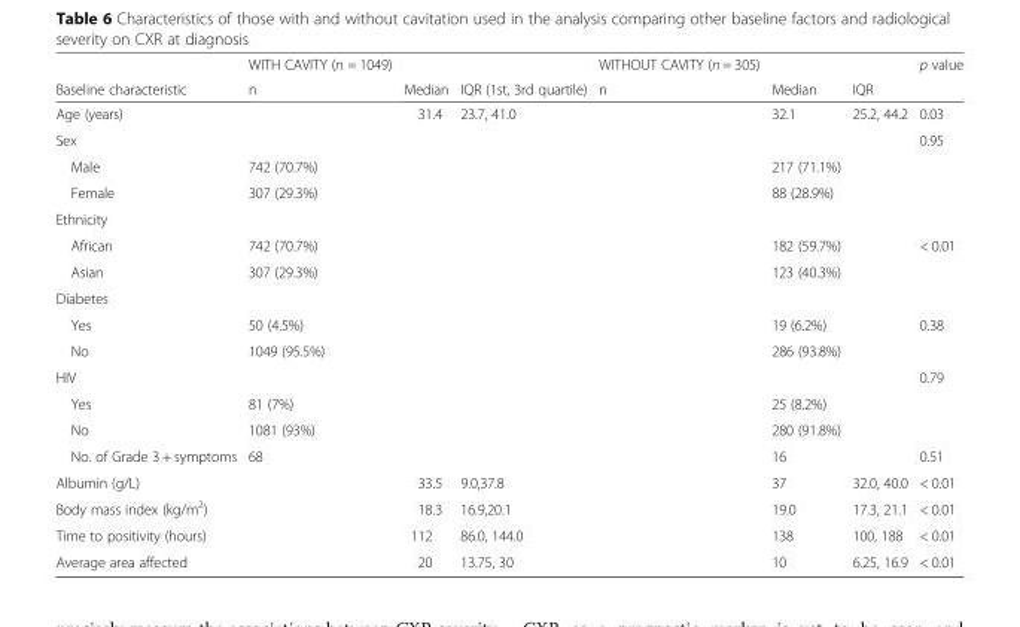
<table><thead><tr><td rowspan="2">Baseline characteristic</td><td rowspan="2">WITH CAVITY (n = 1049) n</td><td rowspan="2">Median</td><td rowspan="2">IQR (1st, 3rd quartile)</td><td rowspan="2">WITHOUT CAVITY (n = 305) n</td><td rowspan="2">Median</td><td rowspan="2">IQR</td><td rowspan="2">p value</td></tr><tr></tr></thead><tbody><tr><td>Age (years)</td><td></td><td>31.4</td><td>23.7, 41.0</td><td></td><td>32.1</td><td>25.2, 44.2</td><td>0.03</td></tr><tr><td>Sex</td><td></td><td></td><td></td><td></td><td></td><td></td><td>0.95</td></tr><tr><td>Male</td><td>742 (70.7%)</td><td rowspan="2"></td><td rowspan="2"></td><td rowspan="2"></td><td>217 (71.1%)</td><td rowspan="2"></td><td rowspan="2"></td></tr><tr><td>Female</td><td>307 (29.3%)</td><td>88 (28.9%)</td></tr><tr><td colspan="8">Ethnicity</td></tr><tr><td>African</td><td>742 (70.7%)</td><td rowspan="2"></td><td rowspan="2"></td><td rowspan="2"></td><td>182 (59.7%)</td><td rowspan="2"></td><td rowspan="2">&lt; 0.01</td></tr><tr><td>Asian</td><td>307 (29.3%)</td><td>123 (40.3%)</td></tr><tr><td colspan="8">Diabetes</td></tr><tr><td>Yes</td><td>50 (4.5%)</td><td rowspan="2"></td><td rowspan="2"></td><td rowspan="2"></td><td>19 (6.2%)</td><td rowspan="2"></td><td>0.38</td></tr><tr><td>No</td><td>1049 (95.5%)</td><td>286 (93.8%)</td><td></td></tr><tr><td>HIV</td><td></td><td></td><td></td><td></td><td></td><td></td><td>0.79</td></tr><tr><td>Yes</td><td>81 (7%)</td><td rowspan="2"></td><td rowspan="2"></td><td rowspan="2"></td><td>25 (8.2%)</td><td rowspan="2"></td><td rowspan="2"></td></tr><tr><td>No</td><td>1081 (93%)</td><td>280 (91.8%)</td></tr><tr><td>No. of Grade 3 + symptoms</td><td>68</td><td></td><td></td><td></td><td>16</td><td></td><td>0.51</td></tr><tr><td>Albumin (g/L)</td><td></td><td>33.5</td><td>9.0,37.8</td><td></td><td>37</td><td>32.0, 40.0</td><td>&lt; 0.01</td></tr><tr><td>Body mass index (kg/m<sup>2</sup>)</td><td></td><td>18.3</td><td>16.9,20.1</td><td></td><td>19.0</td><td>17.3, 21.1</td><td>&lt; 0.01</td></tr><tr><td>Time to positivity (hours)</td><td></td><td>112</td><td>86.0, 144.0</td><td></td><td>138</td><td>100, 188</td><td>&lt; 0.01</td></tr><tr><td>Average area affected</td><td></td><td>20</td><td>13.75, 30</td><td></td><td>10</td><td>6.25, 16.9</td><td>&lt; 0.01</td></tr></tbody></table>